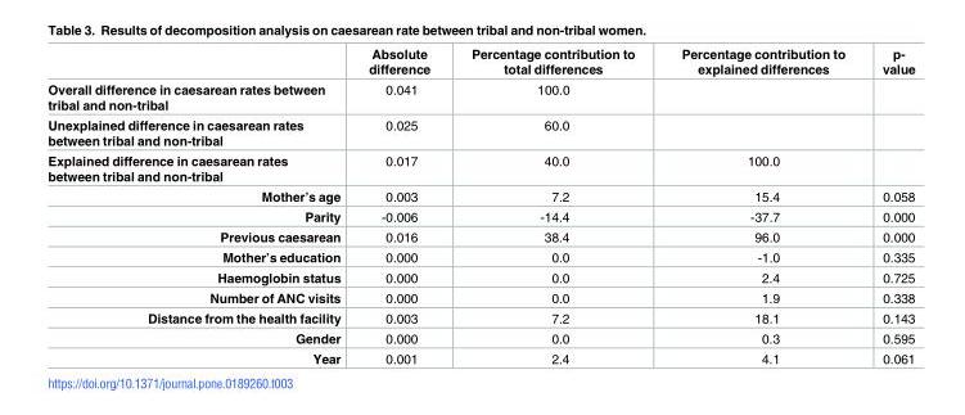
<table><thead><tr><td></td><td>Absolute difference</td><td>Percentage contribution to total differences</td><td>Percentage contribution to explained differences</td><td>p- value</td></tr></thead><tbody><tr><td>Overall difference in caesarean rates between tribal and non-tribal</td><td>0.041</td><td>100.0</td><td></td><td></td></tr><tr><td>Unexplained difference in caesarean rates between tribal and non-tribal</td><td>0.025</td><td>60.0</td><td></td><td></td></tr><tr><td>Explained difference in caesarean rates between tribal and non-tribal</td><td>0.017</td><td>40.0</td><td>100.0</td><td></td></tr><tr><td>Mother’s age</td><td>0.003</td><td>7.2</td><td>15.4</td><td>0.058</td></tr><tr><td>Parity</td><td>-0.006</td><td>-14.4</td><td>-37.7</td><td>0.000</td></tr><tr><td>Previous caesarean</td><td>0.016</td><td>38.4</td><td>96.0</td><td>0.000</td></tr><tr><td>Mother’s education</td><td>0.000</td><td>0.0</td><td>-1.0</td><td>0.335</td></tr><tr><td>Haemoglobin status</td><td>0.000</td><td>0.0</td><td>2.4</td><td>0.725</td></tr><tr><td>Number of ANC visits</td><td>0.000</td><td>0.0</td><td>1.9</td><td>0.338</td></tr><tr><td>Distance from the health facility</td><td>0.003</td><td>7.2</td><td>18.1</td><td>0.143</td></tr><tr><td>Gender</td><td>0.000</td><td>0.0</td><td>0.3</td><td>0.595</td></tr><tr><td>Year</td><td>0.001</td><td>2.4</td><td>4.1</td><td>0.061</td></tr></tbody></table>